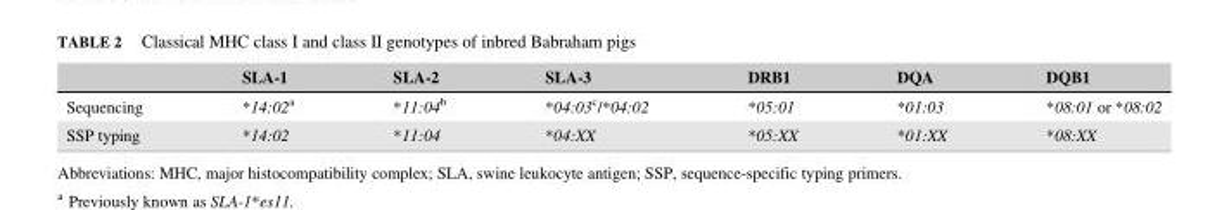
<table><thead><tr><td></td><td>SLA-1</td><td>SLA-2</td><td>SLA-3</td><td>DRB1</td><td>DQA</td><td>DQB1</td></tr></thead><tbody><tr><td>Sequencing</td><td>*14:02a</td><td>*11:04b</td><td>*04:03c/*04:02</td><td>*05:01</td><td>*01:03</td><td>*08:01 or *08:02</td></tr><tr><td>SSP typing</td><td>*14:02</td><td>*11:04</td><td>*04:XX</td><td>*05:XX</td><td>*01:XX</td><td>*08:XX</td></tr></tbody></table>